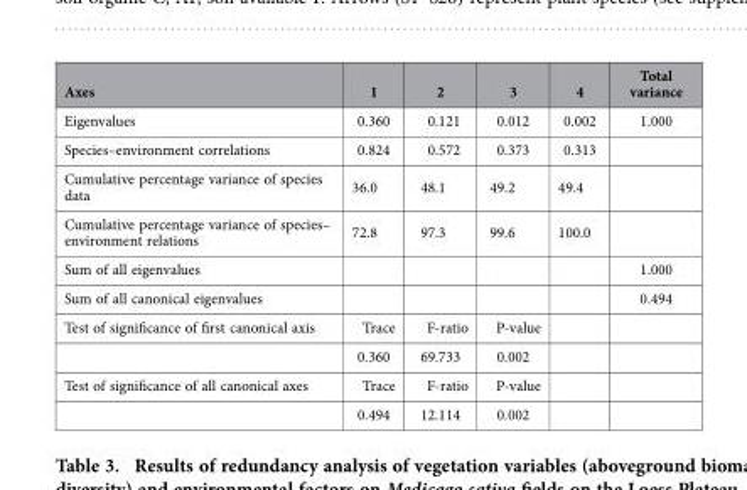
<table><thead><tr><td>Axes</td><td>1</td><td>2</td><td>3</td><td>4</td><td>Total variance</td></tr></thead><tbody><tr><td>Eigenvalues</td><td>0.360</td><td>0.121</td><td>0.012</td><td>0.002</td><td>1.000</td></tr><tr><td>Species–environment correlations</td><td>0.824</td><td>0.572</td><td>0.373</td><td>0.313</td><td></td></tr><tr><td>Cumulative percentage variance of species data</td><td>36.0</td><td>48.1</td><td>49.2</td><td>49.4</td><td></td></tr><tr><td>Cumulative percentage variance of species– environment relations</td><td>72.8</td><td>97.3</td><td>99.6</td><td>100.0</td><td></td></tr><tr><td>Sum of all eigenvalues</td><td></td><td></td><td></td><td></td><td>1.000</td></tr><tr><td>Sum of all canonical eigenvalues</td><td></td><td></td><td></td><td></td><td>0.494</td></tr><tr><td rowspan="2">Test of significance of first canonical axis</td><td>Trace</td><td>F-ratio</td><td>P-value</td><td></td><td></td></tr><tr><td>0.360</td><td>69.733</td><td>0.002</td><td></td><td></td></tr><tr><td rowspan="2">Test of significance of all canonical axes</td><td>Trace</td><td>F-ratio</td><td>P-value</td><td></td><td></td></tr><tr><td>0.494</td><td>12.114</td><td>0.002</td><td></td><td></td></tr></tbody></table>